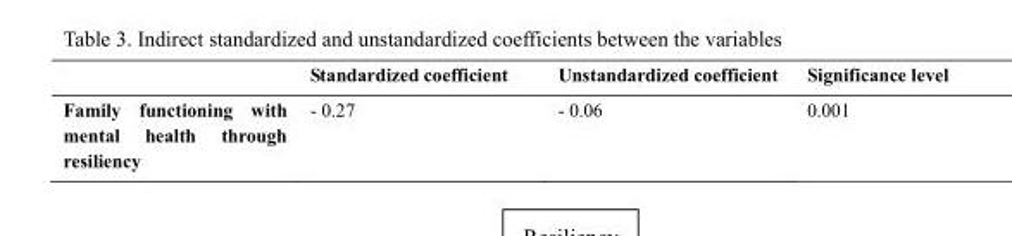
<table><thead><tr><td></td><td>Standardized coefficient</td><td>Unstandardized coefficient</td><td>Significance level</td></tr></thead><tbody><tr><td>Family functioning with mental health through resiliency</td><td>- 0.27</td><td>- 0.06</td><td>0.001</td></tr></tbody></table>